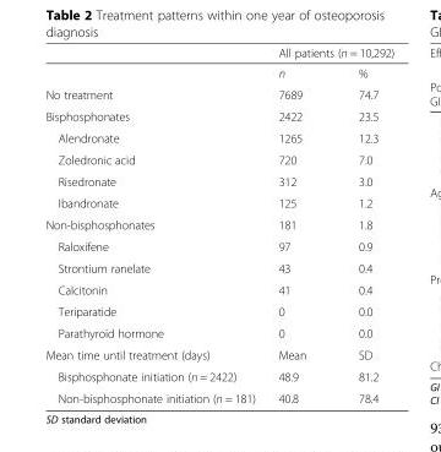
<table><thead><tr><td rowspan="2"></td><td colspan="2">All patients (n = 10,292)</td></tr><tr><td>n</td><td>%</td></tr></thead><tbody><tr><td>No treatment</td><td>7689</td><td>74.7</td></tr><tr><td>Bisphosphonates</td><td>2422</td><td>23.5</td></tr><tr><td>Alendronate</td><td>1265</td><td>12.3</td></tr><tr><td>Zoledronic acid</td><td>720</td><td>7.0</td></tr><tr><td>Risedronate</td><td>312</td><td>3.0</td></tr><tr><td>Ibandronate</td><td>125</td><td>1.2</td></tr><tr><td>Non-bisphosphonates</td><td>181</td><td>1.8</td></tr><tr><td>Raloxifene</td><td>97</td><td>0.9</td></tr><tr><td>Strontium ranelate</td><td>43</td><td>0.4</td></tr><tr><td>Calcitonin</td><td>41</td><td>0.4</td></tr><tr><td>Teriparatide</td><td>0</td><td>0.0</td></tr><tr><td>Parathyroid hormone</td><td>0</td><td>0.0</td></tr><tr><td>Mean time until treatment (days)</td><td>Mean</td><td>SD</td></tr><tr><td>Bisphosphonate initiation (n = 2422)</td><td>48.9</td><td>81.2</td></tr><tr><td>Non-bisphosphonate initiation (n = 181)</td><td>40.8</td><td>78.4</td></tr></tbody></table>